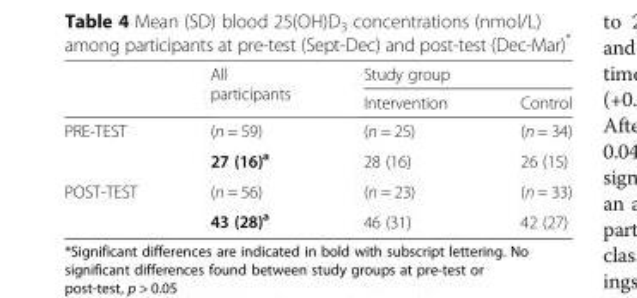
<table><thead><tr><td rowspan="2"></td><td rowspan="2">All participants</td><td colspan="2">Study group</td></tr><tr><td>Intervention</td><td>Control</td></tr></thead><tbody><tr><td rowspan="2">PRE-TEST</td><td>(n = 59)</td><td>(n = 25)</td><td>(n = 34)</td></tr><tr><td>27 (16)<sup>a</sup></td><td>28 (16)</td><td>26 (15)</td></tr><tr><td rowspan="2">POST-TEST</td><td>(n = 56)</td><td>(n = 23)</td><td>(n = 33)</td></tr><tr><td>43 (28)<sup>a</sup></td><td>46 (31)</td><td>42 (27)</td></tr></tbody></table>